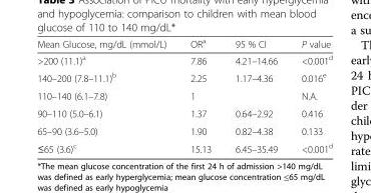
<table><thead><tr><td>Mean Glucose, mg/dL (mmol/L)</td><td>OR<sup>a</sup></td><td>95 % CI</td><td>P value</td></tr></thead><tbody><tr><td>&gt;200 (11.1)<sup>a</sup></td><td>7.86</td><td>4.21–14.66</td><td>&lt;0.001<sup>d</sup></td></tr><tr><td>140–200 (7.8–11.1)<sup>b</sup></td><td>2.25</td><td>1.17–4.36</td><td>0.016<sup>e</sup></td></tr><tr><td>110–140 (6.1–7.8)</td><td>1</td><td></td><td>N.A.</td></tr><tr><td>90–110 (5.0–6.1)</td><td>1.37</td><td>0.64–2.92</td><td>0.416</td></tr><tr><td>65–90 (3.6–5.0)</td><td>1.90</td><td>0.82–4.38</td><td>0.133</td></tr><tr><td>≤65 (3.6)<sup>c</sup></td><td>15.13</td><td>6.45–35.49</td><td>&lt;0.001<sup>d</sup></td></tr></tbody></table>